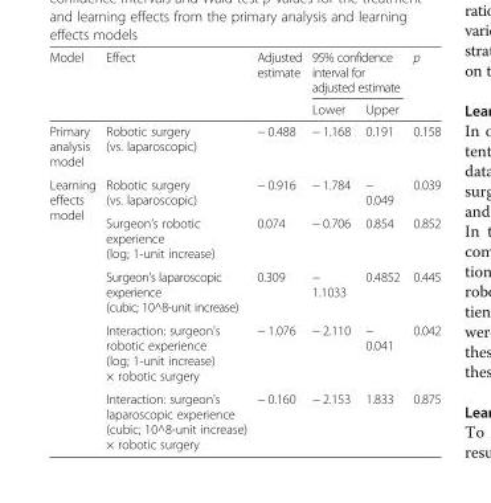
<table><thead><tr><td rowspan="2">Model</td><td rowspan="2">Effect</td><td rowspan="2">Adjusted estimate</td><td colspan="2">95% confidence interval for adjusted estimate</td><td rowspan="2">p</td></tr><tr><td>Lower</td><td>Upper</td></tr></thead><tbody><tr><td>Primary analysis model</td><td>Robotic surgery (vs. laparoscopic)</td><td>− 0.488</td><td>− 1.168</td><td>0.191</td><td>0.158</td></tr><tr><td rowspan="5">Learning effects model</td><td>Robotic surgery (vs. laparoscopic)</td><td>− 0.916</td><td>− 1.784</td><td>− 0.049</td><td>0.039</td></tr><tr><td>Surgeon’s robotic experience (log; 1-unit increase)</td><td>0.074</td><td>− 0.706</td><td>0.854</td><td>0.852</td></tr><tr><td>Surgeon’s laparoscopic experience (cubic; 10^8-unit increase)</td><td>0.309</td><td>− 1.1033</td><td>0.4852</td><td>0.445</td></tr><tr><td>Interaction: surgeon’s robotic experience (log; 1-unit increase) × robotic surgery</td><td>− 1.076</td><td>− 2.110</td><td>− 0.041</td><td>0.042</td></tr><tr><td>Interaction: surgeon’s laparoscopic experience (cubic; 10^8-unit increase) × robotic surgery</td><td>− 0.160</td><td>− 2.153</td><td>1.833</td><td>0.875</td></tr></tbody></table>